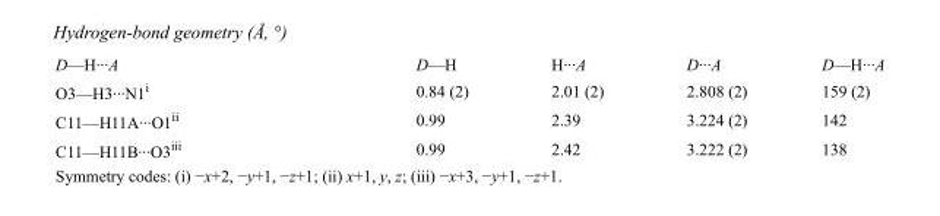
<table><tbody><tr><td>D—H···A</td><td>D—H</td><td>H···A</td><td>D···A</td><td>D—H···A</td></tr><tr><td>O3—H3···N1<sup>i</sup></td><td>0.84 (2)</td><td>2.01 (2)</td><td>2.808 (2)</td><td>159 (2)</td></tr><tr><td>C11—H11A···O1<sup>ii</sup></td><td>0.99</td><td>2.39</td><td>3.224 (2)</td><td>142</td></tr><tr><td>C11—H11B···O3<sup>iii</sup></td><td>0.99</td><td>2.42</td><td>3.222 (2)</td><td>138</td></tr></tbody></table>